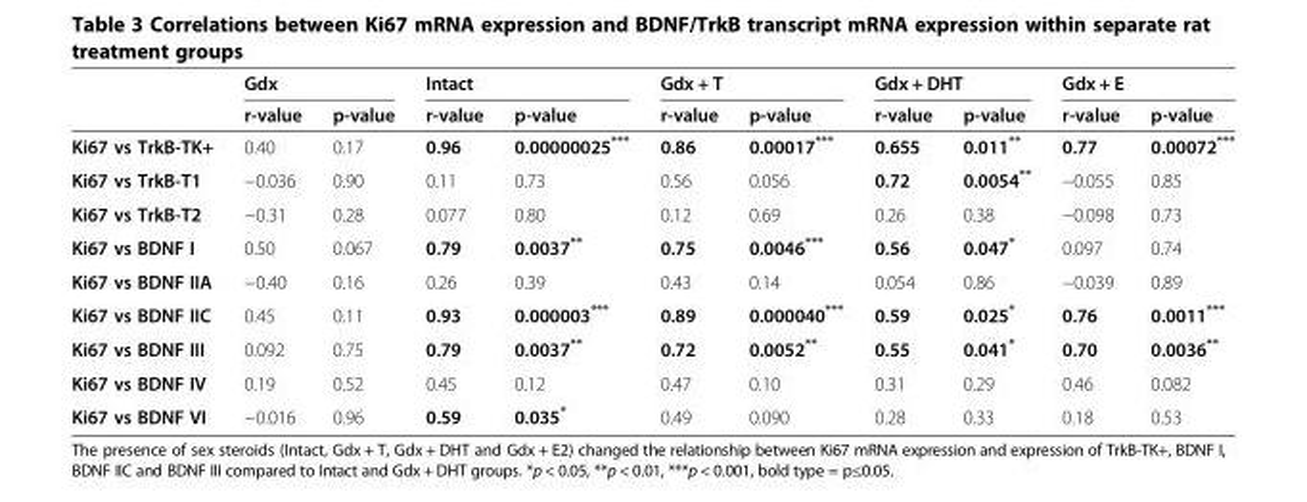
<table><thead><tr><td rowspan="2"></td><td colspan="2">Gdx</td><td colspan="2">Intact</td><td colspan="2">Gdx + T</td><td colspan="2">Gdx + DHT</td><td colspan="2">Gdx + E</td></tr><tr><td>r-value</td><td>p-value</td><td>r-value</td><td>p-value</td><td>r-value</td><td>p-value</td><td>r-value</td><td>p-value</td><td>r-value</td><td>p-value</td></tr></thead><tbody><tr><td>Ki67 vs TrkB-TK+</td><td>0.40</td><td>0.17</td><td>0.96</td><td>0.00000025***</td><td>0.86</td><td>0.00017***</td><td>0.655</td><td>0.011**</td><td>0.77</td><td>0.00072***</td></tr><tr><td>Ki67 vs TrkB-T1</td><td>−0.036</td><td>0.90</td><td>0.11</td><td>0.73</td><td>0.56</td><td>0.056</td><td>0.72</td><td>0.0054**</td><td>−0.055</td><td>0.85</td></tr><tr><td>Ki67 vs TrkB-T2</td><td>−0.31</td><td>0.28</td><td>0.077</td><td>0.80</td><td>0.12</td><td>0.69</td><td>0.26</td><td>0.38</td><td>−0.098</td><td>0.73</td></tr><tr><td>Ki67 vs BDNF I</td><td>0.50</td><td>0.067</td><td>0.79</td><td>0.0037**</td><td>0.75</td><td>0.0046***</td><td>0.56</td><td>0.047*</td><td>0.097</td><td>0.74</td></tr><tr><td>Ki67 vs BDNF IIA</td><td>−0.40</td><td>0.16</td><td>0.26</td><td>0.39</td><td>0.43</td><td>0.14</td><td>0.054</td><td>0.86</td><td>−0.039</td><td>0.89</td></tr><tr><td>Ki67 vs BDNF IIC</td><td>0.45</td><td>0.11</td><td>0.93</td><td>0.000003***</td><td>0.89</td><td>0.000040***</td><td>0.59</td><td>0.025*</td><td>0.76</td><td>0.0011***</td></tr><tr><td>Ki67 vs BDNF III</td><td>0.092</td><td>0.75</td><td>0.79</td><td>0.0037**</td><td>0.72</td><td>0.0052**</td><td>0.55</td><td>0.041*</td><td>0.70</td><td>0.0036**</td></tr><tr><td>Ki67 vs BDNF IV</td><td>0.19</td><td>0.52</td><td>0.45</td><td>0.12</td><td>0.47</td><td>0.10</td><td>0.31</td><td>0.29</td><td>0.46</td><td>0.082</td></tr><tr><td>Ki67 vs BDNF VI</td><td>−0.016</td><td>0.96</td><td>0.59</td><td>0.035*</td><td>0.49</td><td>0.090</td><td>0.28</td><td>0.33</td><td>0.18</td><td>0.53</td></tr></tbody></table>